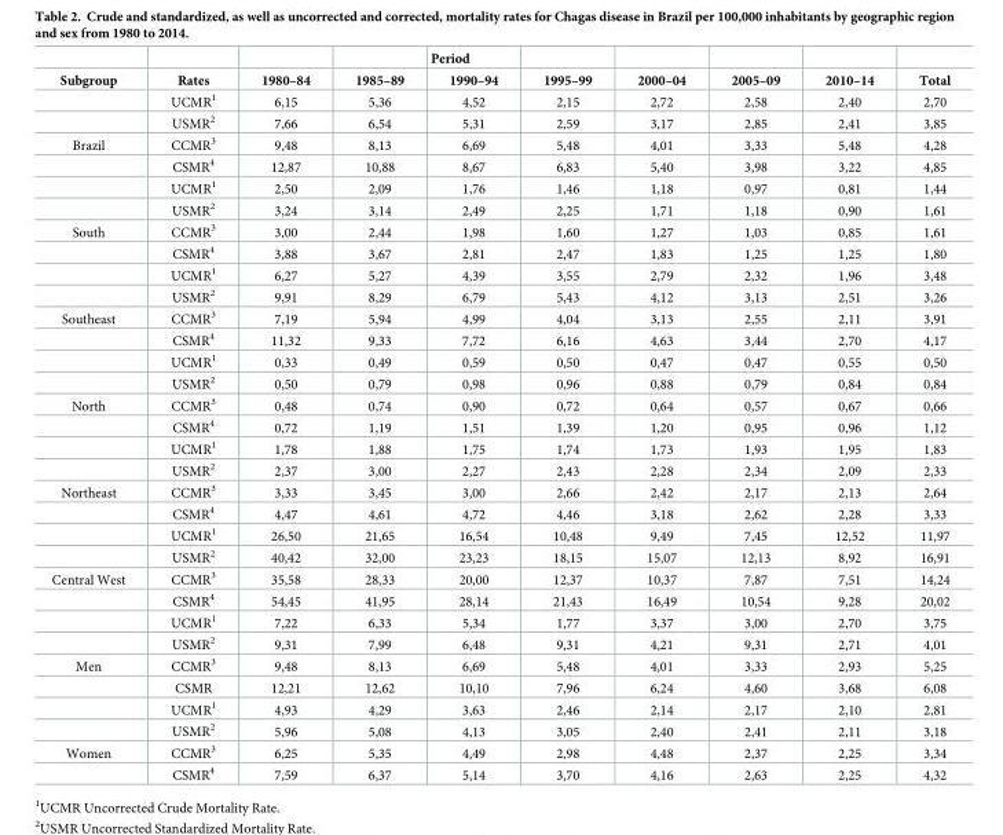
<table><thead><tr><td rowspan="2">Subgroup</td><td rowspan="2">Rates</td><td rowspan="2">1980–84</td><td rowspan="2">1985–89</td><td rowspan="2">Period 1990–94</td><td rowspan="2">1995–99</td><td rowspan="2">2000–04</td><td rowspan="2">2005–09</td><td rowspan="2">2010–14</td><td rowspan="2">Total</td></tr><tr></tr></thead><tbody><tr><td></td><td>UCMR<sup>1</sup></td><td>6,15</td><td>5,36</td><td>4,52</td><td>2,15</td><td>2,72</td><td>2,58</td><td>2,40</td><td>2,70</td></tr><tr><td></td><td>USMR<sup>2</sup></td><td>7,66</td><td>6,54</td><td>5,31</td><td>2,59</td><td>3,17</td><td>2,85</td><td>2,41</td><td>3,85</td></tr><tr><td rowspan="4">Brazil</td><td>CCMR<sup>3</sup></td><td>9,48</td><td>8,13</td><td>6,69</td><td>5,48</td><td>4,01</td><td>3,33</td><td>5,48</td><td>4,28</td></tr><tr><td>CSMR<sup>4</sup></td><td>12,87</td><td>10,88</td><td>8,67</td><td>6,83</td><td>5,40</td><td>3,98</td><td>3,22</td><td>4,85</td></tr><tr><td>UCMR<sup>1</sup></td><td>2,50</td><td>2,09</td><td>1,76</td><td>1,46</td><td>1,18</td><td>0,97</td><td>0,81</td><td>1,44</td></tr><tr><td>USMR<sup>2</sup></td><td>3,24</td><td>3,14</td><td>2,49</td><td>2,25</td><td>1,71</td><td>1,18</td><td>0,90</td><td>1,61</td></tr><tr><td rowspan="4">South</td><td>CCMR<sup>3</sup></td><td>3,00</td><td>2,44</td><td>1,98</td><td>1,60</td><td>1,27</td><td>1,03</td><td>0,85</td><td>1,61</td></tr><tr><td>CSMR<sup>4</sup></td><td>3,88</td><td>3,67</td><td>2,81</td><td>2,47</td><td>1,83</td><td>1,25</td><td>1,25</td><td>1,80</td></tr><tr><td>UCMR<sup>1</sup></td><td>6,27</td><td>5,27</td><td>4,39</td><td>3,55</td><td>2,79</td><td>2,32</td><td>1,96</td><td>3,48</td></tr><tr><td>USMR<sup>2</sup></td><td>9,91</td><td>8,29</td><td>6,79</td><td>5,43</td><td>4,12</td><td>3,13</td><td>2,51</td><td>3,26</td></tr><tr><td rowspan="4">Southeast</td><td>CCMR<sup>3</sup></td><td>7,19</td><td>5,94</td><td>4,99</td><td>4,04</td><td>3,13</td><td>2,55</td><td>2,11</td><td>3,91</td></tr><tr><td>CSMR<sup>4</sup></td><td>11,32</td><td>9,33</td><td>7,72</td><td>6,16</td><td>4,63</td><td>3,44</td><td>2,70</td><td>4,17</td></tr><tr><td>UCMR<sup>1</sup></td><td>0,33</td><td>0,49</td><td>0,59</td><td>0,50</td><td>0,47</td><td>0,47</td><td>0,55</td><td>0,50</td></tr><tr><td>USMR<sup>2</sup></td><td>0,50</td><td>0,79</td><td>0,98</td><td>0,96</td><td>0,88</td><td>0,79</td><td>0,84</td><td>0,84</td></tr><tr><td rowspan="4">North</td><td>CCMR<sup>3</sup></td><td>0,48</td><td>0,74</td><td>0,90</td><td>0,72</td><td>0,64</td><td>0,57</td><td>0,67</td><td>0,66</td></tr><tr><td>CSMR<sup>4</sup></td><td>0,72</td><td>1,19</td><td>1,51</td><td>1,39</td><td>1,20</td><td>0,95</td><td>0,96</td><td>1,12</td></tr><tr><td>UCMR<sup>1</sup></td><td>1,78</td><td>1,88</td><td>1,75</td><td>1,74</td><td>1,73</td><td>1,93</td><td>1,95</td><td>1,83</td></tr><tr><td>USMR<sup>2</sup></td><td>2,37</td><td>3,00</td><td>2,27</td><td>2,43</td><td>2,28</td><td>2,34</td><td>2,09</td><td>2,33</td></tr><tr><td rowspan="4">Northeast</td><td>CCMR<sup>3</sup></td><td>3,33</td><td>3,45</td><td>3,00</td><td>2,66</td><td>2,42</td><td>2,17</td><td>2,13</td><td>2,64</td></tr><tr><td>CSMR<sup>4</sup></td><td>4,47</td><td>4,61</td><td>4,72</td><td>4,46</td><td>3,18</td><td>2,62</td><td>2,28</td><td>3,33</td></tr><tr><td>UCMR<sup>1</sup></td><td>26,50</td><td>21,65</td><td>16,54</td><td>10,48</td><td>9,49</td><td>7,45</td><td>12,52</td><td>11,97</td></tr><tr><td>USMR<sup>2</sup></td><td>40,42</td><td>32,00</td><td>23,23</td><td>18,15</td><td>15,07</td><td>12,13</td><td>8,92</td><td>16,91</td></tr><tr><td rowspan="4">Central West</td><td>CCMR<sup>3</sup></td><td>35,58</td><td>28,33</td><td>20,00</td><td>12,37</td><td>10,37</td><td>7,87</td><td>7,51</td><td>14,24</td></tr><tr><td>CSMR<sup>4</sup></td><td>54,45</td><td>41,95</td><td>28,14</td><td>21,43</td><td>16,49</td><td>10,54</td><td>9,28</td><td>20,02</td></tr><tr><td>UCMR<sup>1</sup></td><td>7,22</td><td>6,33</td><td>5,34</td><td>1,77</td><td>3,37</td><td>3,00</td><td>2,70</td><td>3,75</td></tr><tr><td>USMR<sup>2</sup></td><td>9,31</td><td>7,99</td><td>6,48</td><td>9,31</td><td>4,21</td><td>9,31</td><td>2,71</td><td>4,01</td></tr><tr><td rowspan="4">Men</td><td>CCMR<sup>3</sup></td><td>9,48</td><td>8,13</td><td>6,69</td><td>5,48</td><td>4,01</td><td>3,33</td><td>2,93</td><td>5,25</td></tr><tr><td>CSMR</td><td>12,21</td><td>12,62</td><td>10,10</td><td>7,96</td><td>6,24</td><td>4,60</td><td>3,68</td><td>6,08</td></tr><tr><td>UCMR<sup>1</sup></td><td>4,93</td><td>4,29</td><td>3,63</td><td>2,46</td><td>2,14</td><td>2,17</td><td>2,10</td><td>2,81</td></tr><tr><td>USMR<sup>2</sup></td><td>5,96</td><td>5,08</td><td>4,13</td><td>3,05</td><td>2,40</td><td>2,41</td><td>2,11</td><td>3,18</td></tr><tr><td rowspan="2">Women</td><td>CCMR<sup>3</sup></td><td>6,25</td><td>5,35</td><td>4,49</td><td>2,98</td><td>4,48</td><td>2,37</td><td>2,25</td><td>3,34</td></tr><tr><td>CSMR<sup>4</sup></td><td>7,59</td><td>6,37</td><td>5,14</td><td>3,70</td><td>4,16</td><td>2,63</td><td>2,25</td><td>4,32</td></tr></tbody></table>